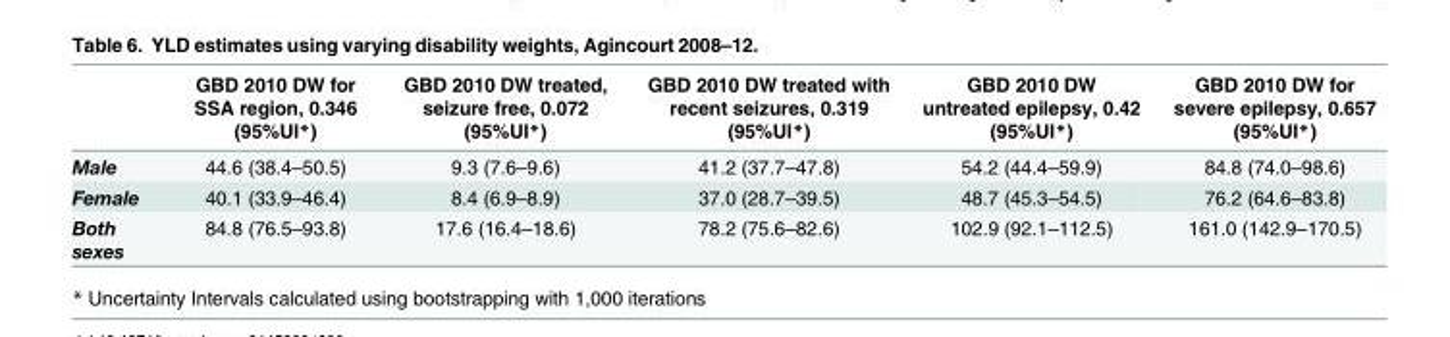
<table><thead><tr><td></td><td>GBD 2010 DW for SSA region, 0.346 (95%UI*)</td><td>GBD 2010 DW treated, seizure free, 0.072 (95%UI*)</td><td>GBD 2010 DW treated with recent seizures, 0.319 (95%UI*)</td><td>GBD 2010 DW untreated epilepsy, 0.42 (95%UI*)</td><td>GBD 2010 DW for severe epilepsy, 0.657 (95%UI*)</td></tr></thead><tbody><tr><td>Male</td><td>44.6 (38.4–50.5)</td><td>9.3 (7.6–9.6)</td><td>41.2 (37.7–47.8)</td><td>54.2 (44.4–59.9)</td><td>84.8 (74.0–98.6)</td></tr><tr><td>Female</td><td>40.1 (33.9–46.4)</td><td>8.4 (6.9–8.9)</td><td>37.0 (28.7–39.5)</td><td>48.7 (45.3–54.5)</td><td>76.2 (64.6–83.8)</td></tr><tr><td>Both sexes</td><td>84.8 (76.5–93.8)</td><td>17.6 (16.4–18.6)</td><td>78.2 (75.6–82.6)</td><td>102.9 (92.1–112.5)</td><td>161.0 (142.9–170.5)</td></tr></tbody></table>